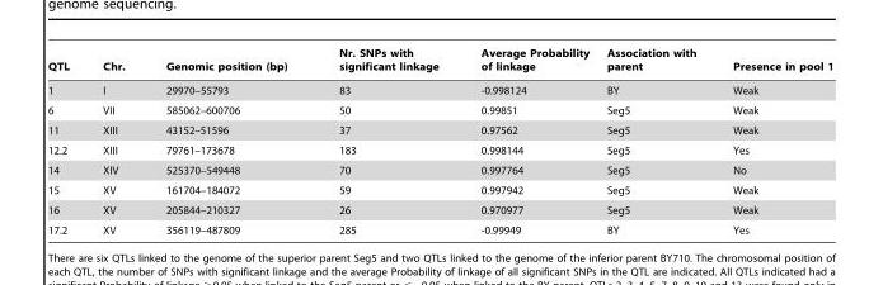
<table><thead><tr><td>QTL</td><td>Chr.</td><td>Genomic position (bp)</td><td>Nr. SNPs with significant linkage</td><td>Average Probability of linkage</td><td>Association with parent</td><td>Presence in pool 1</td></tr></thead><tbody><tr><td>1</td><td>I</td><td>29970–55793</td><td>83</td><td>-0.998124</td><td>BY</td><td>Weak</td></tr><tr><td>6</td><td>VII</td><td>585062–600706</td><td>50</td><td>0.99851</td><td>Seg5</td><td>Weak</td></tr><tr><td>11</td><td>XIII</td><td>43152–51596</td><td>37</td><td>0.97562</td><td>Seg5</td><td>Weak</td></tr><tr><td>12.2</td><td>XIII</td><td>79761–173678</td><td>183</td><td>0.998144</td><td>Seg5</td><td>Yes</td></tr><tr><td>14</td><td>XIV</td><td>525370–549448</td><td>70</td><td>0.997764</td><td>Seg5</td><td>No</td></tr><tr><td>15</td><td>XV</td><td>161704–184072</td><td>59</td><td>0.997942</td><td>Seg5</td><td>Weak</td></tr><tr><td>16</td><td>XV</td><td>205844–210327</td><td>26</td><td>0.970977</td><td>Seg5</td><td>Weak</td></tr><tr><td>17.2</td><td>XV</td><td>356119–487809</td><td>285</td><td>-0.99949</td><td>BY</td><td>Yes</td></tr></tbody></table>